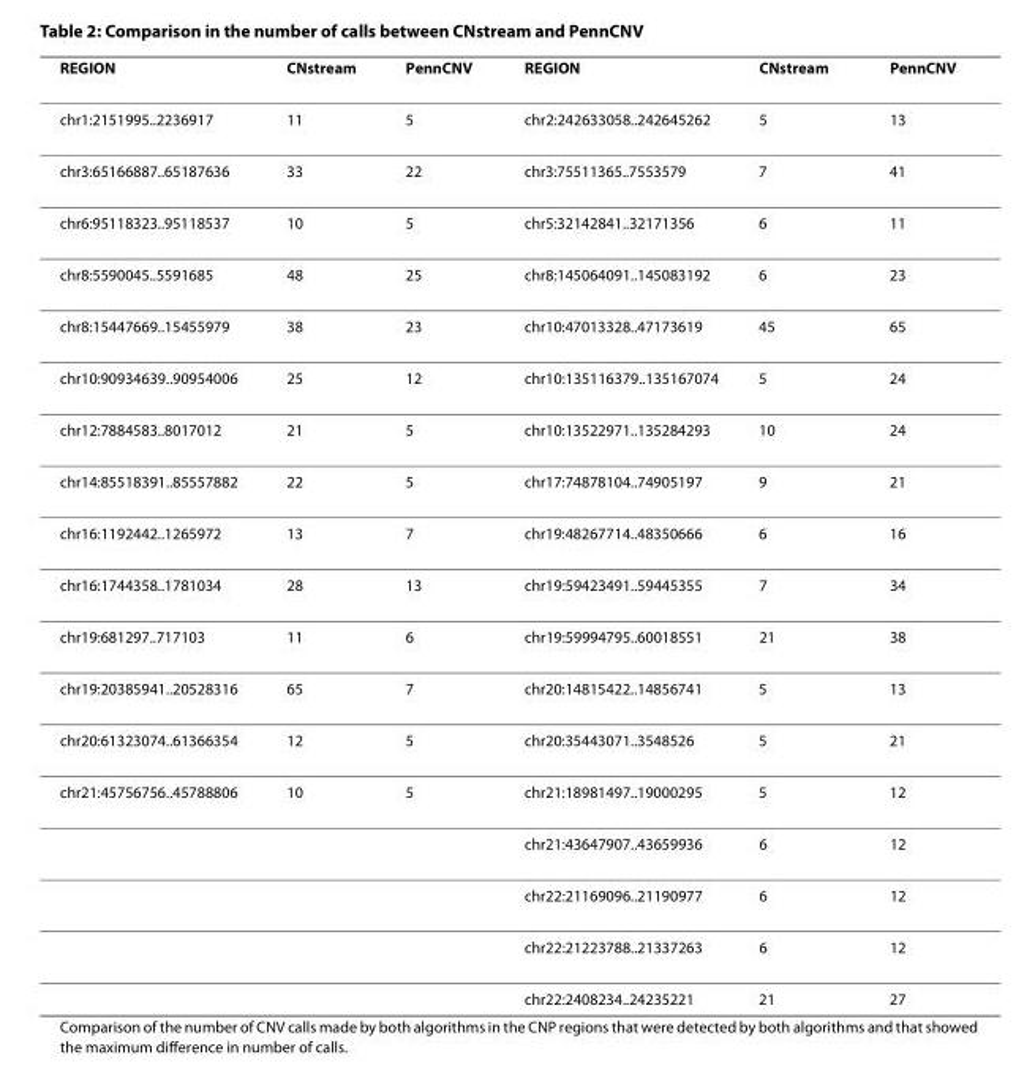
<table><thead><tr><td>REGION</td><td>CNstream</td><td>PennCNV</td><td>REGION</td><td>CNstream</td><td>PennCNV</td></tr></thead><tbody><tr><td>chr1:2151995..2236917</td><td>11</td><td>5</td><td>chr2:242633058..242645262</td><td>5</td><td>13</td></tr><tr><td>chr3:65166887..65187636</td><td>33</td><td>22</td><td>chr3:75511365..7553579</td><td>7</td><td>41</td></tr><tr><td>chr6:95118323..95118537</td><td>10</td><td>5</td><td>chr5:32142841..32171356</td><td>6</td><td>11</td></tr><tr><td>chr8:5590045..5591685</td><td>48</td><td>25</td><td>chr8:145064091..145083192</td><td>6</td><td>23</td></tr><tr><td>chr8:15447669..15455979</td><td>38</td><td>23</td><td>chr10:47013328..47173619</td><td>45</td><td>65</td></tr><tr><td>chr10:90934639..90954006</td><td>25</td><td>12</td><td>chr10:135116379..135167074</td><td>5</td><td>24</td></tr><tr><td>chr12:7884583..8017012</td><td>21</td><td>5</td><td>chr10:13522971..135284293</td><td>10</td><td>24</td></tr><tr><td>chr14:85518391..85557882</td><td>22</td><td>5</td><td>chr17:74878104..74905197</td><td>9</td><td>21</td></tr><tr><td>chr16:1192442..1265972</td><td>13</td><td>7</td><td>chr19:48267714..48350666</td><td>6</td><td>16</td></tr><tr><td>chr16:1744358..1781034</td><td>28</td><td>13</td><td>chr19:59423491..59445355</td><td>7</td><td>34</td></tr><tr><td>chr19:681297..717103</td><td>11</td><td>6</td><td>chr19:59994795..60018551</td><td>21</td><td>38</td></tr><tr><td>chr19:20385941..20528316</td><td>65</td><td>7</td><td>chr20:14815422..14856741</td><td>5</td><td>13</td></tr><tr><td>chr20:61323074..61366354</td><td>12</td><td>5</td><td>chr20:35443071..3548526</td><td>5</td><td>21</td></tr><tr><td rowspan="5">chr21:45756756..45788806</td><td>10</td><td>5</td><td>chr21:18981497..19000295</td><td>5</td><td>12</td></tr><tr><td></td><td></td><td>chr21:43647907..43659936</td><td>6</td><td>12</td></tr><tr><td></td><td></td><td>chr22:21169096..21190977</td><td>6</td><td>12</td></tr><tr><td></td><td></td><td>chr22:21223788..21337263</td><td>6</td><td>12</td></tr><tr><td></td><td></td><td>chr22:2408234..24235221</td><td>21</td><td>27</td></tr></tbody></table>